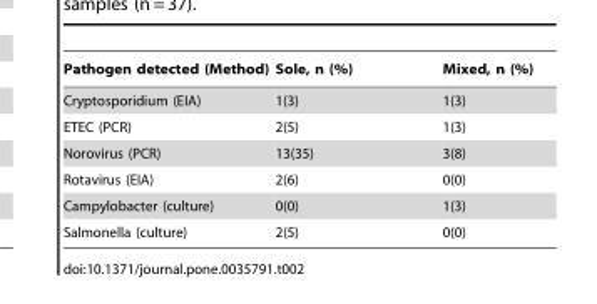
<table><thead><tr><td>Pathogen detected (Method)</td><td>Sole, n (%)</td><td>Mixed, n (%)</td></tr></thead><tbody><tr><td>Cryptosporidium (EIA)</td><td>1(3)</td><td>1(3)</td></tr><tr><td>ETEC (PCR)</td><td>2(5)</td><td>1(3)</td></tr><tr><td>Norovirus (PCR)</td><td>13(35)</td><td>3(8)</td></tr><tr><td>Rotavirus (EIA)</td><td>2(6)</td><td>0(0)</td></tr><tr><td>Campylobacter (culture)</td><td>0(0)</td><td>1(3)</td></tr><tr><td>Salmonella (culture)</td><td>2(5)</td><td>0(0)</td></tr></tbody></table>